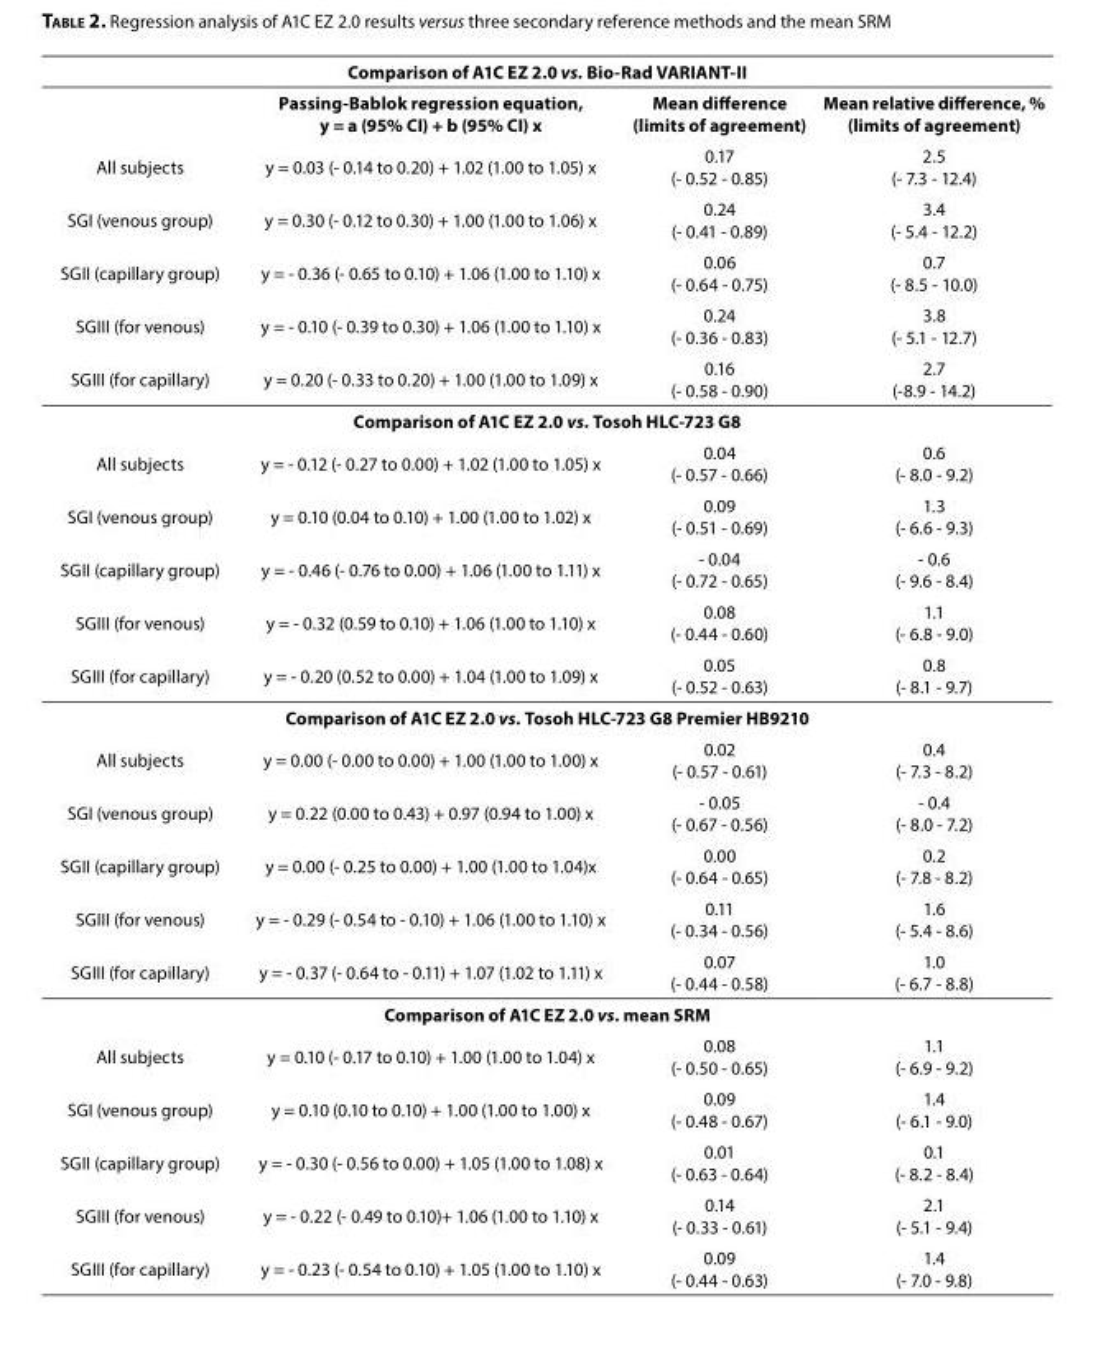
<table><thead><tr><td colspan="4">Comparison of A1C EZ 2.0 vs. Bio-Rad VARIANT-II</td></tr><tr><td></td><td>Passing-Bablok regression equation, y = a (95% CI) + b (95% CI) x</td><td>Mean difference (limits of agreement)</td><td>Mean relative difference, % (limits of agreement)</td></tr></thead><tbody><tr><td>All subjects</td><td>y = 0.03 (- 0.14 to 0.20) + 1.02 (1.00 to 1.05) x</td><td>0.17 (- 0.52 - 0.85)</td><td>2.5 (- 7.3 - 12.4)</td></tr><tr><td>SGI (venous group)</td><td>y = 0.30 (- 0.12 to 0.30) + 1.00 (1.00 to 1.06) x</td><td>0.24 (- 0.41 - 0.89)</td><td>3.4 (- 5.4 - 12.2)</td></tr><tr><td>SGII (capillary group)</td><td>y = - 0.36 (- 0.65 to 0.10) + 1.06 (1.00 to 1.10) x</td><td>0.06 (- 0.64 - 0.75)</td><td>0.7 (- 8.5 - 10.0)</td></tr><tr><td>SGIII (for venous)</td><td>y = - 0.10 (- 0.39 to 0.30) + 1.06 (1.00 to 1.10) x</td><td>0.24 (- 0.36 - 0.83)</td><td>3.8 (- 5.1 - 12.7)</td></tr><tr><td>SGIII (for capillary)</td><td>y = 0.20 (- 0.33 to 0.20) + 1.00 (1.00 to 1.09) x</td><td>0.16 (- 0.58 - 0.90)</td><td>2.7 (-8.9 - 14.2)</td></tr><tr><td colspan="4">Comparison of A1C EZ 2.0 vs. Tosoh HLC-723 G8</td></tr><tr><td>All subjects</td><td>y = - 0.12 (- 0.27 to 0.00) + 1.02 (1.00 to 1.05) x</td><td>0.04 (- 0.57 - 0.66)</td><td>0.6 (- 8.0 - 9.2)</td></tr><tr><td>SGI (venous group)</td><td>y = 0.10 (0.04 to 0.10) + 1.00 (1.00 to 1.02) x</td><td>0.09 (- 0.51 - 0.69)</td><td>1.3 (- 6.6 - 9.3)</td></tr><tr><td>SGII (capillary group)</td><td>y = - 0.46 (- 0.76 to 0.00) + 1.06 (1.00 to 1.11) x</td><td>- 0.04 (- 0.72 - 0.65)</td><td>- 0.6 (- 9.6 - 8.4)</td></tr><tr><td>SGIII (for venous)</td><td>y = - 0.32 (0.59 to 0.10) + 1.06 (1.00 to 1.10) x</td><td>0.08 (- 0.44 - 0.60)</td><td>1.1 (- 6.8 - 9.0)</td></tr><tr><td>SGIII (for capillary)</td><td>y = - 0.20 (0.52 to 0.00) + 1.04 (1.00 to 1.09) x</td><td>0.05 (- 0.52 - 0.63)</td><td>0.8 (- 8.1 - 9.7)</td></tr><tr><td colspan="4">Comparison of A1C EZ 2.0 vs. Tosoh HLC-723 G8 Premier HB9210</td></tr><tr><td>All subjects</td><td>y = 0.00 (- 0.00 to 0.00) + 1.00 (1.00 to 1.00) x</td><td>0.02 (- 0.57 - 0.61)</td><td>0.4 (- 7.3 - 8.2)</td></tr><tr><td>SGI (venous group)</td><td>y = 0.22 (0.00 to 0.43) + 0.97 (0.94 to 1.00) x</td><td>- 0.05 (- 0.67 - 0.56)</td><td>- 0.4 (- 8.0 - 7.2)</td></tr><tr><td>SGII (capillary group)</td><td>y = 0.00 (- 0.25 to 0.00) + 1.00 (1.00 to 1.04)x</td><td>0.00 (- 0.64 - 0.65)</td><td>0.2 (- 7.8 - 8.2)</td></tr><tr><td>SGIII (for venous)</td><td>y = - 0.29 (- 0.54 to - 0.10) + 1.06 (1.00 to 1.10) x</td><td>0.11 (- 0.34 - 0.56)</td><td>1.6 (- 5.4 - 8.6)</td></tr><tr><td>SGIII (for capillary)</td><td>y = - 0.37 (- 0.64 to - 0.11) + 1.07 (1.02 to 1.11) x</td><td>0.07 (- 0.44 - 0.58)</td><td>1.0 (- 6.7 - 8.8)</td></tr><tr><td colspan="4">Comparison of A1C EZ 2.0 vs. mean SRM</td></tr><tr><td>All subjects</td><td>y = 0.10 (- 0.17 to 0.10) + 1.00 (1.00 to 1.04) x</td><td>0.08 (- 0.50 - 0.65)</td><td>1.1 (- 6.9 - 9.2)</td></tr><tr><td>SGI (venous group)</td><td>y = 0.10 (0.10 to 0.10) + 1.00 (1.00 to 1.00) x</td><td>0.09 (- 0.48 - 0.67)</td><td>1.4 (- 6.1 - 9.0)</td></tr><tr><td>SGII (capillary group)</td><td>y = - 0.30 (- 0.56 to 0.00) + 1.05 (1.00 to 1.08) x</td><td>0.01 (- 0.63 - 0.64)</td><td>0.1 (- 8.2 - 8.4)</td></tr><tr><td>SGIII (for venous)</td><td>y = - 0.22 (- 0.49 to 0.10)+ 1.06 (1.00 to 1.10) x</td><td>0.14 (- 0.33 - 0.61)</td><td>2.1 (- 5.1 - 9.4)</td></tr><tr><td>SGIII (for capillary)</td><td>y = - 0.23 (- 0.54 to 0.10) + 1.05 (1.00 to 1.10) x</td><td>0.09 (- 0.44 - 0.63)</td><td>1.4 (- 7.0 - 9.8)</td></tr></tbody></table>